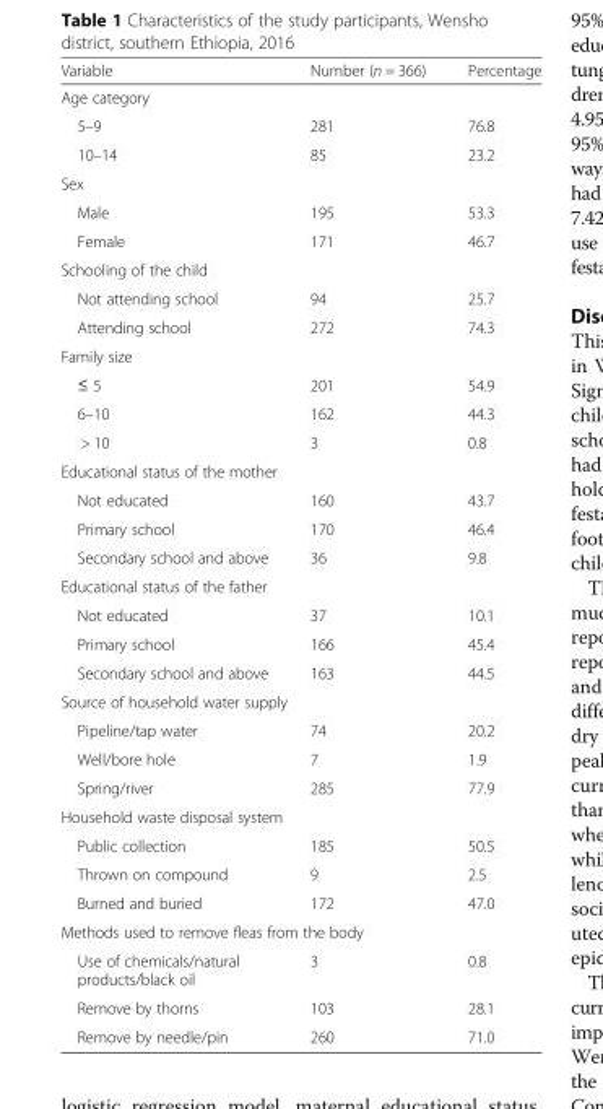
<table><thead><tr><td>Variable</td><td>Number (n = 366)</td><td>Percentage</td></tr></thead><tbody><tr><td colspan="3">Age category</td></tr><tr><td>5–9</td><td>281</td><td>76.8</td></tr><tr><td>10–14</td><td>85</td><td>23.2</td></tr><tr><td colspan="3">Sex</td></tr><tr><td>Male</td><td>195</td><td>53.3</td></tr><tr><td>Female</td><td>171</td><td>46.7</td></tr><tr><td colspan="3">Schooling of the child</td></tr><tr><td>Not attending school</td><td>94</td><td>25.7</td></tr><tr><td>Attending school</td><td>272</td><td>74.3</td></tr><tr><td colspan="3">Family size</td></tr><tr><td>≤ 5</td><td>201</td><td>54.9</td></tr><tr><td>6–10</td><td>162</td><td>44.3</td></tr><tr><td>&gt; 10</td><td>3</td><td>0.8</td></tr><tr><td colspan="3">Educational status of the mother</td></tr><tr><td>Not educated</td><td>160</td><td>43.7</td></tr><tr><td>Primary school</td><td>170</td><td>46.4</td></tr><tr><td>Secondary school and above</td><td>36</td><td>9.8</td></tr><tr><td colspan="3">Educational status of the father</td></tr><tr><td>Not educated</td><td>37</td><td>10.1</td></tr><tr><td>Primary school</td><td>166</td><td>45.4</td></tr><tr><td>Secondary school and above</td><td>163</td><td>44.5</td></tr><tr><td colspan="3">Source of household water supply</td></tr><tr><td>Pipeline/tap water</td><td>74</td><td>20.2</td></tr><tr><td>Well/bore hole</td><td>7</td><td>1.9</td></tr><tr><td>Spring/river</td><td>285</td><td>77.9</td></tr><tr><td colspan="3">Household waste disposal system</td></tr><tr><td>Public collection</td><td>185</td><td>50.5</td></tr><tr><td>Thrown on compound</td><td>9</td><td>2.5</td></tr><tr><td>Burned and buried</td><td>172</td><td>47.0</td></tr><tr><td colspan="3">Methods used to remove fleas from the body</td></tr><tr><td>Use of chemicals/natural products/black oil</td><td>3</td><td>0.8</td></tr><tr><td>Remove by thorns</td><td>103</td><td>28.1</td></tr><tr><td>Remove by needle/pin</td><td>260</td><td>71.0</td></tr></tbody></table>